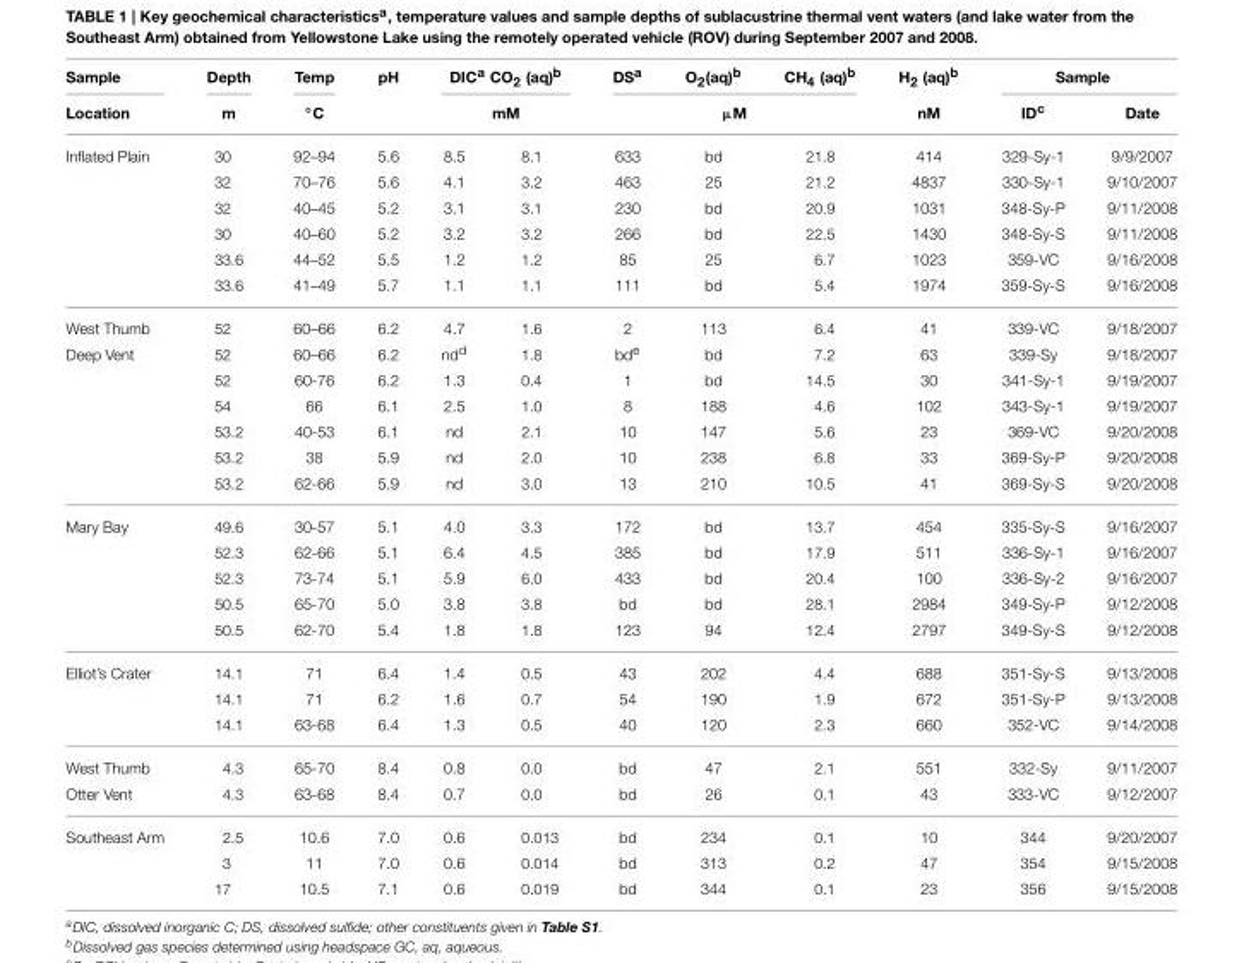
<table><thead><tr><td rowspan="3">Sample Location Inflated Plain</td><td rowspan="3">Depth m 30</td><td rowspan="3">Temp ◦C 92–94</td><td rowspan="3">pH 5.6</td><td rowspan="2" colspan="2">DIC<sup>a</sup> CO<sub>2</sub> (aq)<sup>b</sup> mM</td><td>DS<sup>a</sup></td><td>O<sub>2</sub>(aq)<sup>b</sup></td><td>CH<sub>4</sub> (aq)<sup>b</sup></td><td rowspan="3">H<sub>2</sub> (aq)<sup>b</sup> nM 414</td><td colspan="2">Sample</td></tr><tr><td colspan="3">µM</td><td rowspan="2">ID<sup>c</sup> 329-Sy-1</td><td rowspan="2">Date 9/9/2007</td></tr><tr><td>8.5</td><td>8.1</td><td>633</td><td>bd</td><td>21.8</td></tr></thead><tbody><tr><td></td><td>32</td><td>70–76</td><td>5.6</td><td>4.1</td><td>3.2</td><td>463</td><td>25</td><td>21.2</td><td>4837</td><td>330-Sy-1</td><td>9/10/2007</td></tr><tr><td></td><td>32</td><td>40–45</td><td>5.2</td><td>3.1</td><td>3.1</td><td>230</td><td>bd</td><td>20.9</td><td>1031</td><td>348-Sy-P</td><td>9/11/2008</td></tr><tr><td></td><td>30</td><td>40–60</td><td>5.2</td><td>3.2</td><td>3.2</td><td>266</td><td>bd</td><td>22.5</td><td>1430</td><td>348-Sy-S</td><td>9/11/2008</td></tr><tr><td></td><td>33.6</td><td>44–52</td><td>5.5</td><td>1.2</td><td>1.2</td><td>85</td><td>25</td><td>6.7</td><td>1023</td><td>359-VC</td><td>9/16/2008</td></tr><tr><td></td><td>33.6</td><td>41–49</td><td>5.7</td><td>1.1</td><td>1.1</td><td>111</td><td>bd</td><td>5.4</td><td>1974</td><td>359-Sy-S</td><td>9/16/2008</td></tr><tr><td>West Thumb</td><td>52</td><td>60–66</td><td>6.2</td><td>4.7</td><td>1.6</td><td>2</td><td>113</td><td>6.4</td><td>41</td><td>339-VC</td><td>9/18/2007</td></tr><tr><td rowspan="6">Deep Vent</td><td>52</td><td>60–66</td><td>6.2</td><td>nd<sup>d</sup></td><td>1.8</td><td>bd<sup>e</sup></td><td>bd</td><td>7.2</td><td>63</td><td>339-Sy</td><td>9/18/2007</td></tr><tr><td>52</td><td>60-76</td><td>6.2</td><td>1.3</td><td>0.4</td><td>1</td><td>bd</td><td>14.5</td><td>30</td><td>341-Sy-1</td><td>9/19/2007</td></tr><tr><td>54</td><td>66</td><td>6.1</td><td>2.5</td><td>1.0</td><td>8</td><td>188</td><td>4.6</td><td>102</td><td>343-Sy-1</td><td>9/19/2007</td></tr><tr><td>53.2</td><td>40-53</td><td>6.1</td><td>nd</td><td>2.1</td><td>10</td><td>147</td><td>5.6</td><td>23</td><td>369-VC</td><td>9/20/2008</td></tr><tr><td>53.2</td><td>38</td><td>5.9</td><td>nd</td><td>2.0</td><td>10</td><td>238</td><td>6.8</td><td>33</td><td>369-Sy-P</td><td>9/20/2008</td></tr><tr><td>53.2</td><td>62-66</td><td>5.9</td><td>nd</td><td>3.0</td><td>13</td><td>210</td><td>10.5</td><td>41</td><td>369-Sy-S</td><td>9/20/2008</td></tr><tr><td rowspan="5">Mary Bay</td><td>49.6</td><td>30-57</td><td>5.1</td><td>4.0</td><td>3.3</td><td>172</td><td>bd</td><td>13.7</td><td>454</td><td>335-Sy-S</td><td>9/16/2007</td></tr><tr><td>52.3</td><td>62-66</td><td>5.1</td><td>6.4</td><td>4.5</td><td>385</td><td>bd</td><td>17.9</td><td>511</td><td>336-Sy-1</td><td>9/16/2007</td></tr><tr><td>52.3</td><td>73-74</td><td>5.1</td><td>5.9</td><td>6.0</td><td>433</td><td>bd</td><td>20.4</td><td>100</td><td>336-Sy-2</td><td>9/16/2007</td></tr><tr><td>50.5</td><td>65-70</td><td>5.0</td><td>3.8</td><td>3.8</td><td>bd</td><td>bd</td><td>28.1</td><td>2984</td><td>349-Sy-P</td><td>9/12/2008</td></tr><tr><td>50.5</td><td>62-70</td><td>5.4</td><td>1.8</td><td>1.8</td><td>123</td><td>94</td><td>12.4</td><td>2797</td><td>349-Sy-S</td><td>9/12/2008</td></tr><tr><td rowspan="3">Elliot’s Crater</td><td>14.1</td><td>71</td><td>6.4</td><td>1.4</td><td>0.5</td><td>43</td><td>202</td><td>4.4</td><td>688</td><td>351-Sy-S</td><td>9/13/2008</td></tr><tr><td>14.1</td><td>71</td><td>6.2</td><td>1.6</td><td>0.7</td><td>54</td><td>190</td><td>1.9</td><td>672</td><td>351-Sy-P</td><td>9/13/2008</td></tr><tr><td>14.1</td><td>63-68</td><td>6.4</td><td>1.3</td><td>0.5</td><td>40</td><td>120</td><td>2.3</td><td>660</td><td>352-VC</td><td>9/14/2008</td></tr><tr><td>West Thumb</td><td>4.3</td><td>65-70</td><td>8.4</td><td>0.8</td><td>0.0</td><td>bd</td><td>47</td><td>2.1</td><td>551</td><td>332-Sy</td><td>9/11/2007</td></tr><tr><td>Otter Vent</td><td>4.3</td><td>63-68</td><td>8.4</td><td>0.7</td><td>0.0</td><td>bd</td><td>26</td><td>0.1</td><td>43</td><td>333-VC</td><td>9/12/2007</td></tr><tr><td rowspan="3">Southeast Arm</td><td>2.5</td><td>10.6</td><td>7.0</td><td>0.6</td><td>0.013</td><td>bd</td><td>234</td><td>0.1</td><td>10</td><td>344</td><td>9/20/2007</td></tr><tr><td>3</td><td>11</td><td>7.0</td><td>0.6</td><td>0.014</td><td>bd</td><td>313</td><td>0.2</td><td>47</td><td>354</td><td>9/15/2008</td></tr><tr><td>17</td><td>10.5</td><td>7.1</td><td>0.6</td><td>0.019</td><td>bd</td><td>344</td><td>0.1</td><td>23</td><td>356</td><td>9/15/2008</td></tr></tbody></table>